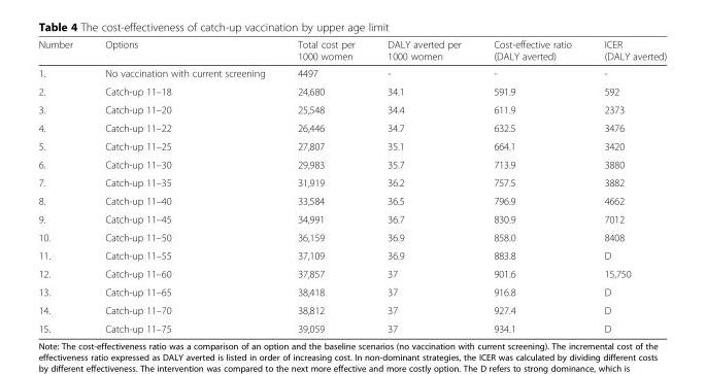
<table><thead><tr><td>Number</td><td>Options</td><td>Total cost per 1000 women</td><td>DALY averted per 1000 women</td><td>Cost-effective ratio (DALY averted)</td><td>ICER (DALY averted)</td></tr></thead><tbody><tr><td>1.</td><td>No vaccination with current screening</td><td>4497</td><td>-</td><td>-</td><td>-</td></tr><tr><td>2.</td><td>Catch-up 11–18</td><td>24,680</td><td>34.1</td><td>591.9</td><td>592</td></tr><tr><td>3.</td><td>Catch-up 11–20</td><td>25,548</td><td>34.4</td><td>611.9</td><td>2373</td></tr><tr><td>4.</td><td>Catch-up 11–22</td><td>26,446</td><td>34.7</td><td>632.5</td><td>3476</td></tr><tr><td>5.</td><td>Catch-up 11–25</td><td>27,807</td><td>35.1</td><td>664.1</td><td>3420</td></tr><tr><td>6.</td><td>Catch-up 11–30</td><td>29,983</td><td>35.7</td><td>713.9</td><td>3880</td></tr><tr><td>7.</td><td>Catch-up 11–35</td><td>31,919</td><td>36.2</td><td>757.5</td><td>3882</td></tr><tr><td>8.</td><td>Catch-up 11–40</td><td>33,584</td><td>36.5</td><td>796.9</td><td>4662</td></tr><tr><td>9.</td><td>Catch-up 11–45</td><td>34,991</td><td>36.7</td><td>830.9</td><td>7012</td></tr><tr><td>10.</td><td>Catch-up 11–50</td><td>36,159</td><td>36.9</td><td>858.0</td><td>8408</td></tr><tr><td>11.</td><td>Catch-up 11–55</td><td>37,109</td><td>36.9</td><td>883.8</td><td>D</td></tr><tr><td>12.</td><td>Catch-up 11–60</td><td>37,857</td><td>37</td><td>901.6</td><td>15,750</td></tr><tr><td>13.</td><td>Catch-up 11–65</td><td>38,418</td><td>37</td><td>916.8</td><td>D</td></tr><tr><td>14.</td><td>Catch-up 11–70</td><td>38,812</td><td>37</td><td>927.4</td><td>D</td></tr><tr><td>15.</td><td>Catch-up 11–75</td><td>39,059</td><td>37</td><td>934.1</td><td>D</td></tr></tbody></table>